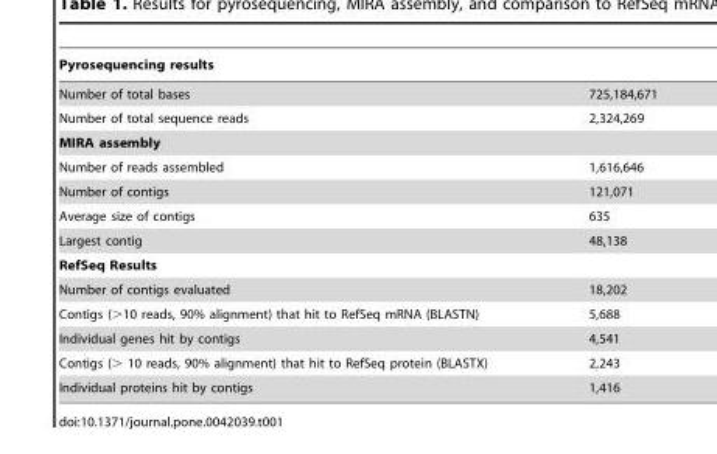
<table><thead><tr><td colspan="2">Pyrosequencing results</td></tr><tr><td>Number of total bases</td><td>725,184,671</td></tr></thead><tbody><tr><td>Number of total sequence reads</td><td>2,324,269</td></tr><tr><td colspan="2">MIRA assembly</td></tr><tr><td>Number of reads assembled</td><td>1,616,646</td></tr><tr><td>Number of contigs</td><td>121,071</td></tr><tr><td>Average size of contigs</td><td>635</td></tr><tr><td>Largest contig</td><td>48,138</td></tr><tr><td colspan="2">RefSeq Results</td></tr><tr><td>Number of contigs evaluated</td><td>18,202</td></tr><tr><td>Contigs (&gt;10 reads, 90% alignment) that hit to RefSeq mRNA (BLASTN)</td><td>5,688</td></tr><tr><td>Individual genes hit by contigs</td><td>4,541</td></tr><tr><td>Contigs (&gt; 10 reads, 90% alignment) that hit to RefSeq protein (BLASTX)</td><td>2,243</td></tr><tr><td>Individual proteins hit by contigs</td><td>1,416</td></tr></tbody></table>